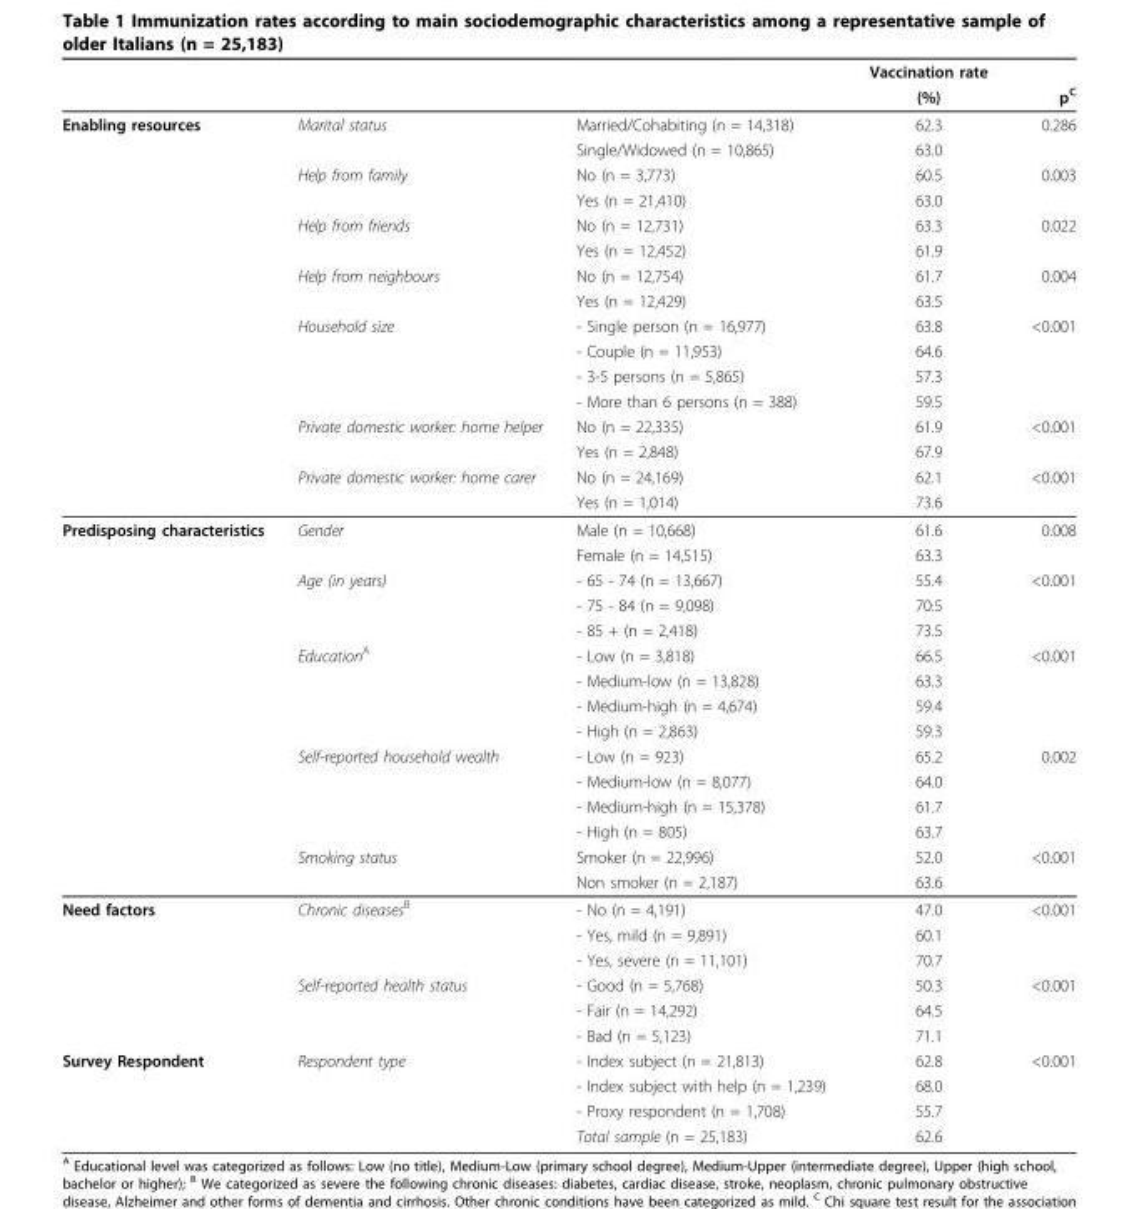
<table><thead><tr><td rowspan="2"></td><td rowspan="2"></td><td rowspan="2"></td><td rowspan="2">Vaccination rate (%)</td><td rowspan="2">p<sup>C</sup></td></tr><tr></tr></thead><tbody><tr><td rowspan="16">Enabling resources</td><td>Marital status</td><td>Married/Cohabiting (n = 14,318)</td><td>62.3</td><td>0.286</td></tr><tr><td></td><td>Single/Widowed (n = 10,865)</td><td>63.0</td><td></td></tr><tr><td>Help from family</td><td>No (n = 3,773)</td><td>60.5</td><td>0.003</td></tr><tr><td></td><td>Yes (n = 21,410)</td><td>63.0</td><td></td></tr><tr><td>Help from friends</td><td>No (n = 12,731)</td><td>63.3</td><td>0.022</td></tr><tr><td></td><td>Yes (n = 12,452)</td><td>61.9</td><td></td></tr><tr><td>Help from neighbours</td><td>No (n = 12,754)</td><td>61.7</td><td>0.004</td></tr><tr><td></td><td>Yes (n = 12,429)</td><td>63.5</td><td></td></tr><tr><td>Household size</td><td>- Single person (n = 16,977)</td><td>63.8</td><td>&lt;0.001</td></tr><tr><td></td><td>- Couple (n = 11,953)</td><td>64.6</td><td></td></tr><tr><td></td><td>- 3-5 persons (n = 5,865)</td><td>57.3</td><td></td></tr><tr><td></td><td>- More than 6 persons (n = 388)</td><td>59.5</td><td></td></tr><tr><td>Private domestic worker: home helper</td><td>No (n = 22,335)</td><td>61.9</td><td>&lt;0.001</td></tr><tr><td></td><td>Yes (n = 2,848)</td><td>67.9</td><td></td></tr><tr><td>Private domestic worker: home carer</td><td>No (n = 24,169)</td><td>62.1</td><td>&lt;0.001</td></tr><tr><td></td><td>Yes (n = 1,014)</td><td>73.6</td><td></td></tr><tr><td rowspan="15">Predisposing characteristics</td><td>Gender</td><td>Male (n = 10,668)</td><td>61.6</td><td>0.008</td></tr><tr><td></td><td>Female (n = 14,515)</td><td>63.3</td><td></td></tr><tr><td>Age (in years)</td><td>- 65 - 74 (n = 13,667)</td><td>55.4</td><td>&lt;0.001</td></tr><tr><td></td><td>- 75 - 84 (n = 9,098)</td><td>70.5</td><td></td></tr><tr><td></td><td>- 85 + (n = 2,418)</td><td>73.5</td><td></td></tr><tr><td>Education<sup>A</sup></td><td>- Low (n = 3,818)</td><td>66.5</td><td>&lt;0.001</td></tr><tr><td></td><td>- Medium-low (n = 13,828)</td><td>63.3</td><td></td></tr><tr><td></td><td>- Medium-high (n = 4,674)</td><td>59.4</td><td></td></tr><tr><td></td><td>- High (n = 2,863)</td><td>59.3</td><td></td></tr><tr><td>Self-reported household wealth</td><td>- Low (n = 923)</td><td>65.2</td><td>0.002</td></tr><tr><td></td><td>- Medium-low (n = 8,077)</td><td>64.0</td><td></td></tr><tr><td></td><td>- Medium-high (n = 15,378)</td><td>61.7</td><td></td></tr><tr><td></td><td>- High (n = 805)</td><td>63.7</td><td></td></tr><tr><td>Smoking status</td><td>Smoker (n = 22,996)</td><td>52.0</td><td>&lt;0.001</td></tr><tr><td></td><td>Non smoker (n = 2,187)</td><td>63.6</td><td></td></tr><tr><td rowspan="6">Need factors</td><td>Chronic diseases<sup>B</sup></td><td>- No (n = 4,191)</td><td>47.0</td><td>&lt;0.001</td></tr><tr><td></td><td>- Yes, mild (n = 9,891)</td><td>60.1</td><td></td></tr><tr><td></td><td>- Yes, severe (n = 11,101)</td><td>70.7</td><td></td></tr><tr><td>Self-reported health status</td><td>- Good (n = 5,768)</td><td>50.3</td><td>&lt;0.001</td></tr><tr><td></td><td>- Fair (n = 14,292)</td><td>64.5</td><td></td></tr><tr><td></td><td>- Bad (n = 5,123)</td><td>71.1</td><td></td></tr><tr><td rowspan="4">Survey Respondent</td><td>Respondent type</td><td>- Index subject (n = 21,813)</td><td>62.8</td><td>&lt;0.001</td></tr><tr><td></td><td>- Index subject with help (n = 1,239)</td><td>68.0</td><td></td></tr><tr><td></td><td>- Proxy respondent (n = 1,708)</td><td>55.7</td><td></td></tr><tr><td></td><td>Total sample (n = 25,183)</td><td>62.6</td><td></td></tr></tbody></table>